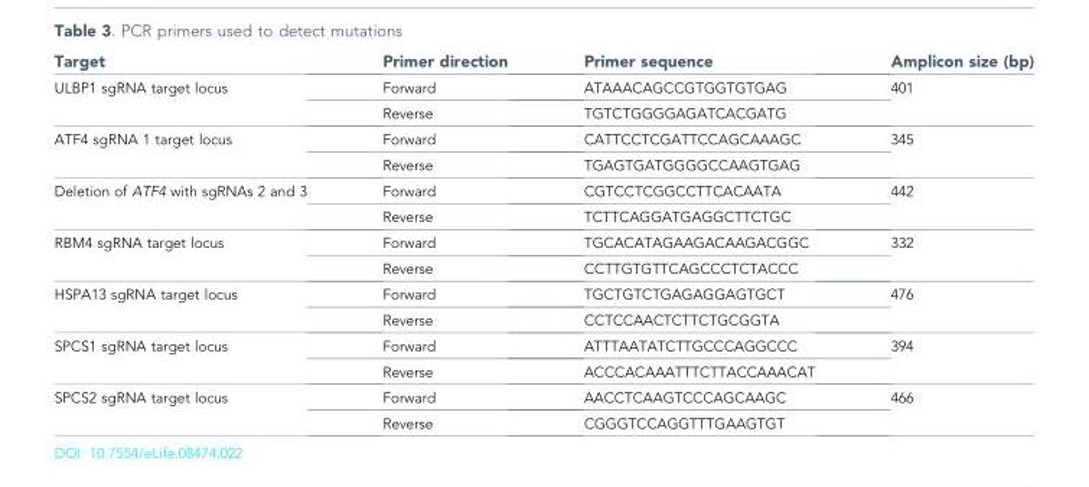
<table><thead><tr><td>Target</td><td>Primer direction</td><td>Primer sequence</td><td>Amplicon size (bp)</td></tr></thead><tbody><tr><td rowspan="2">ULBP1 sgRNA target locus</td><td>Forward</td><td>ATAAACAGCCGTGGTGTGAG</td><td rowspan="2">401</td></tr><tr><td>Reverse</td><td>TGTCTGGGGAGATCACGATG</td></tr><tr><td rowspan="2">ATF4 sgRNA 1 target locus</td><td>Forward</td><td>CATTCCTCGATTCCAGCAAAGC</td><td rowspan="2">345</td></tr><tr><td>Reverse</td><td>TGAGTGATGGGGCCAAGTGAG</td></tr><tr><td rowspan="2">Deletion of ATF4 with sgRNAs 2 and 3</td><td>Forward</td><td>CGTCCTCGGCCTTCACAATA</td><td rowspan="2">442</td></tr><tr><td>Reverse</td><td>TCTTCAGGATGAGGCTTCTGC</td></tr><tr><td rowspan="2">RBM4 sgRNA target locus</td><td>Forward</td><td>TGCACATAGAAGACAAGACGGC</td><td rowspan="2">332</td></tr><tr><td>Reverse</td><td>CCTTGTGTTCAGCCCTCTACCC</td></tr><tr><td rowspan="2">HSPA13 sgRNA target locus</td><td>Forward</td><td>TGCTGTCTGAGAGGAGTGCT</td><td rowspan="2">476</td></tr><tr><td>Reverse</td><td>CCTCCAACTCTTCTGCGGTA</td></tr><tr><td rowspan="2">SPCS1 sgRNA target locus</td><td>Forward</td><td>ATTTAATATCTTGCCCAGGCCC</td><td rowspan="2">394</td></tr><tr><td>Reverse</td><td>ACCCACAAATTTCTTACCAAACAT</td></tr><tr><td rowspan="2">SPCS2 sgRNA target locus</td><td>Forward</td><td>AACCTCAAGTCCCAGCAAGC</td><td rowspan="2">466</td></tr><tr><td>Reverse</td><td>CGGGTCCAGGTTTGAAGTGT</td></tr></tbody></table>